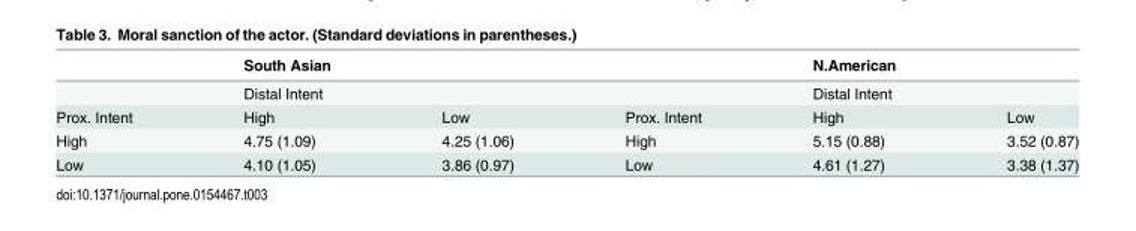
<table><thead><tr><td></td><td>South Asian</td><td></td><td></td><td>N.American</td><td></td></tr></thead><tbody><tr><td></td><td>Distal Intent</td><td></td><td></td><td>Distal Intent</td><td></td></tr><tr><td>Prox. Intent</td><td>High</td><td>Low</td><td>Prox. Intent</td><td>High</td><td>Low</td></tr><tr><td>High</td><td>4.75 (1.09)</td><td>4.25 (1.06)</td><td>High</td><td>5.15 (0.88)</td><td>3.52 (0.87)</td></tr><tr><td>Low</td><td>4.10 (1.05)</td><td>3.86 (0.97)</td><td>Low</td><td>4.61 (1.27)</td><td>3.38 (1.37)</td></tr></tbody></table>